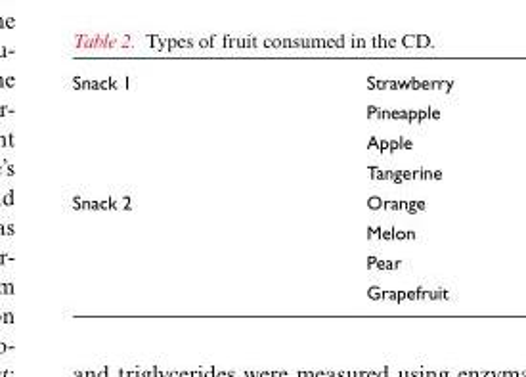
<table><tbody><tr><td rowspan="4">Snack 1</td><td>Strawberry</td></tr><tr><td>Pineapple</td></tr><tr><td>Apple</td></tr><tr><td>Tangerine</td></tr><tr><td rowspan="4">Snack 2</td><td>Orange</td></tr><tr><td>Melon</td></tr><tr><td>Pear</td></tr><tr><td>Grapefruit</td></tr></tbody></table>